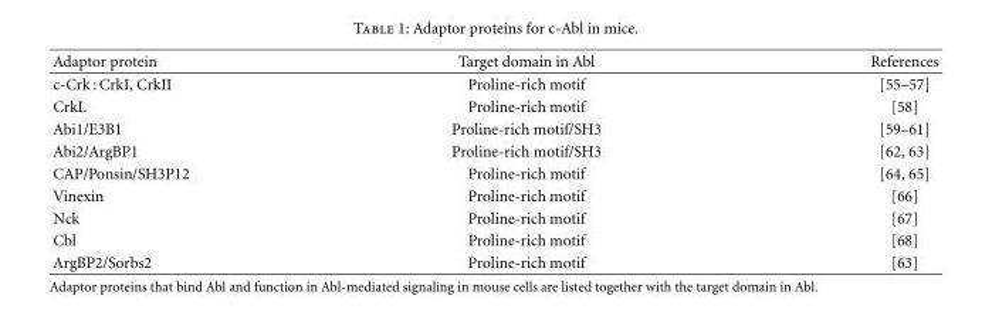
<table><thead><tr><td>Adaptor protein</td><td>Target domain in Abl</td><td>References</td></tr></thead><tbody><tr><td>c-Crk : CrkI, CrkII</td><td>Proline-rich motif</td><td>[55–57]</td></tr><tr><td>CrkL</td><td>Proline-rich motif</td><td>[58]</td></tr><tr><td>Abi1/E3B1</td><td>Proline-rich motif/SH3</td><td>[59–61]</td></tr><tr><td>Abi2/ArgBP1</td><td>Proline-rich motif/SH3</td><td>[62, 63]</td></tr><tr><td>CAP/Ponsin/SH3P12</td><td>Proline-rich motif</td><td>[64, 65]</td></tr><tr><td>Vinexin</td><td>Proline-rich motif</td><td>[66]</td></tr><tr><td>Nck</td><td>Proline-rich motif</td><td>[67]</td></tr><tr><td>Cbl</td><td>Proline-rich motif</td><td>[68]</td></tr><tr><td>ArgBP2/Sorbs2</td><td>Proline-rich motif</td><td>[63]</td></tr></tbody></table>